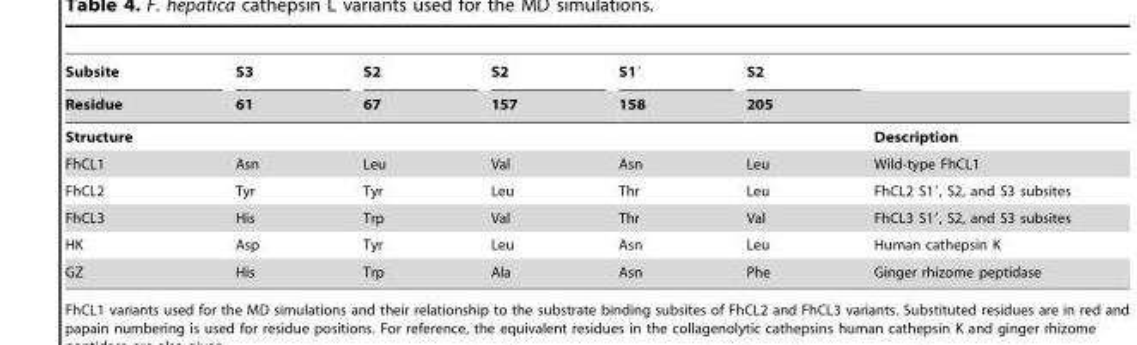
<table><thead><tr><td rowspan="2">Subsite Residue</td><td rowspan="2">S3 61</td><td rowspan="2">S2 67</td><td rowspan="2">S2 157</td><td rowspan="2">S1′ 158</td><td rowspan="2">S2 205</td><td rowspan="2"></td></tr><tr></tr></thead><tbody><tr><td>Structure</td><td></td><td></td><td></td><td></td><td></td><td>Description</td></tr><tr><td>FhCL1</td><td>Asn</td><td>Leu</td><td>Val</td><td>Asn</td><td>Leu</td><td>Wild-type FhCL1</td></tr><tr><td>FhCL2</td><td>Tyr</td><td>Tyr</td><td>Leu</td><td>Thr</td><td>Leu</td><td>FhCL2 S1′, S2, and S3 subsites</td></tr><tr><td>FhCL3</td><td>His</td><td>Trp</td><td>Val</td><td>Thr</td><td>Val</td><td>FhCL3 S1′, S2, and S3 subsites</td></tr><tr><td>HK</td><td>Asp</td><td>Tyr</td><td>Leu</td><td>Asn</td><td>Leu</td><td>Human cathepsin K</td></tr><tr><td>GZ</td><td>His</td><td>Trp</td><td>Ala</td><td>Asn</td><td>Phe</td><td>Ginger rhizome peptidase</td></tr></tbody></table>